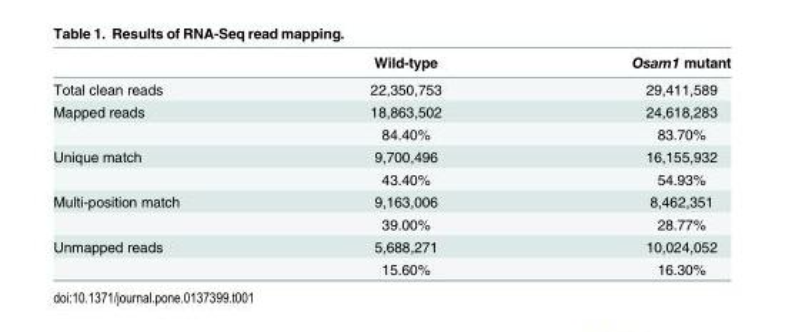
<table><thead><tr><td></td><td>Wild-type</td><td>Osam1 mutant</td></tr></thead><tbody><tr><td>Total clean reads</td><td>22,350,753</td><td>29,411,589</td></tr><tr><td rowspan="2">Mapped reads</td><td>18,863,502</td><td>24,618,283</td></tr><tr><td>84.40%</td><td>83.70%</td></tr><tr><td rowspan="2">Unique match</td><td>9,700,496</td><td>16,155,932</td></tr><tr><td>43.40%</td><td>54.93%</td></tr><tr><td rowspan="2">Multi-position match</td><td>9,163,006</td><td>8,462,351</td></tr><tr><td>39.00%</td><td>28.77%</td></tr><tr><td rowspan="2">Unmapped reads</td><td>5,688,271</td><td>10,024,052</td></tr><tr><td>15.60%</td><td>16.30%</td></tr></tbody></table>